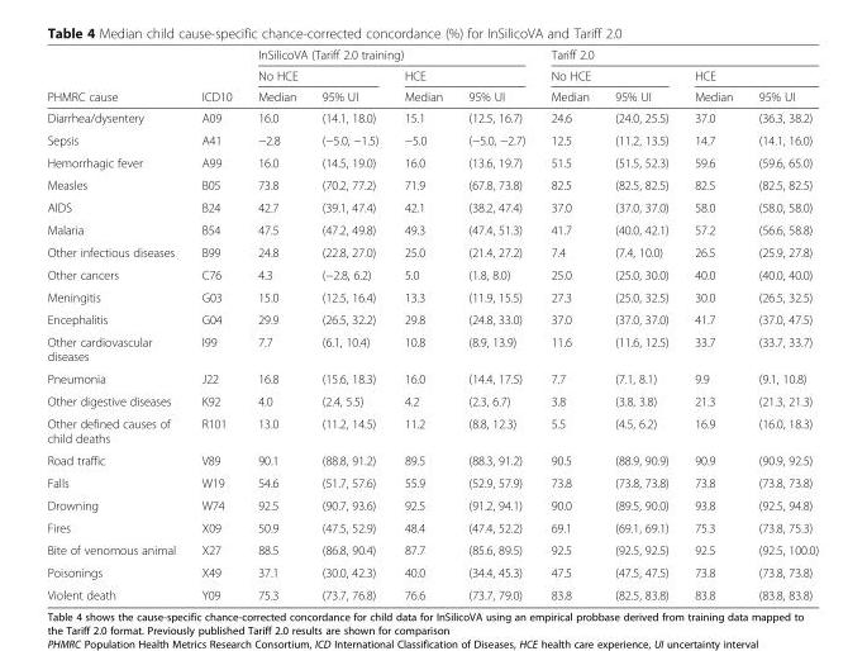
<table><thead><tr><td rowspan="3">PHMRC cause</td><td rowspan="3">ICD10</td><td colspan="4">InSilicoVA (Tariff 2.0 training)</td><td colspan="4">Tariff 2.0</td></tr><tr><td colspan="2">No HCE</td><td colspan="2">HCE</td><td colspan="2">No HCE</td><td colspan="2">HCE</td></tr><tr><td>Median</td><td>95% UI</td><td>Median</td><td>95% UI</td><td>Median</td><td>95% UI</td><td>Median</td><td>95% UI</td></tr></thead><tbody><tr><td>Diarrhea/dysentery</td><td>A09</td><td>16.0</td><td>(14.1, 18.0)</td><td>15.1</td><td>(12.5, 16.7)</td><td>24.6</td><td>(24.0, 25.5)</td><td>37.0</td><td>(36.3, 38.2)</td></tr><tr><td>Sepsis</td><td>A41</td><td>−2.8</td><td>(−5.0, −1.5)</td><td>−5.0</td><td>(−5.0, −2.7)</td><td>12.5</td><td>(11.2, 13.5)</td><td>14.7</td><td>(14.1, 16.0)</td></tr><tr><td>Hemorrhagic fever</td><td>A99</td><td>16.0</td><td>(14.5, 19.0)</td><td>16.0</td><td>(13.6, 19.7)</td><td>51.5</td><td>(51.5, 52.3)</td><td>59.6</td><td>(59.6, 65.0)</td></tr><tr><td>Measles</td><td>B05</td><td>73.8</td><td>(70.2, 77.2)</td><td>71.9</td><td>(67.8, 73.8)</td><td>82.5</td><td>(82.5, 82.5)</td><td>82.5</td><td>(82.5, 82.5)</td></tr><tr><td>AIDS</td><td>B24</td><td>42.7</td><td>(39.1, 47.4)</td><td>42.1</td><td>(38.2, 47.4)</td><td>37.0</td><td>(37.0, 37.0)</td><td>58.0</td><td>(58.0, 58.0)</td></tr><tr><td>Malaria</td><td>B54</td><td>47.5</td><td>(47.2, 49.8)</td><td>49.3</td><td>(47.4, 51.3)</td><td>41.7</td><td>(40.0, 42.1)</td><td>57.2</td><td>(56.6, 58.8)</td></tr><tr><td>Other infectious diseases</td><td>B99</td><td>24.8</td><td>(22.8, 27.0)</td><td>25.0</td><td>(21.4, 27.2)</td><td>7.4</td><td>(7.4, 10.0)</td><td>26.5</td><td>(25.9, 27.8)</td></tr><tr><td>Other cancers</td><td>C76</td><td>4.3</td><td>(−2.8, 6.2)</td><td>5.0</td><td>(1.8, 8.0)</td><td>25.0</td><td>(25.0, 30.0)</td><td>40.0</td><td>(40.0, 40.0)</td></tr><tr><td>Meningitis</td><td>G03</td><td>15.0</td><td>(12.5, 16.4)</td><td>13.3</td><td>(11.9, 15.5)</td><td>27.3</td><td>(25.0, 32.5)</td><td>30.0</td><td>(26.5, 32.5)</td></tr><tr><td>Encephalitis</td><td>G04</td><td>29.9</td><td>(26.5, 32.2)</td><td>29.8</td><td>(24.8, 33.0)</td><td>37.0</td><td>(37.0, 37.0)</td><td>41.7</td><td>(37.0, 47.5)</td></tr><tr><td>Other cardiovascular diseases</td><td>I99</td><td>7.7</td><td>(6.1, 10.4)</td><td>10.8</td><td>(8.9, 13.9)</td><td>11.6</td><td>(11.6, 12.5)</td><td>33.7</td><td>(33.7, 33.7)</td></tr><tr><td>Pneumonia</td><td>J22</td><td>16.8</td><td>(15.6, 18.3)</td><td>16.0</td><td>(14.4, 17.5)</td><td>7.7</td><td>(7.1, 8.1)</td><td>9.9</td><td>(9.1, 10.8)</td></tr><tr><td>Other digestive diseases</td><td>K92</td><td>4.0</td><td>(2.4, 5.5)</td><td>4.2</td><td>(2.3, 6.7)</td><td>3.8</td><td>(3.8, 3.8)</td><td>21.3</td><td>(21.3, 21.3)</td></tr><tr><td>Other defined causes of child deaths</td><td>R101</td><td>13.0</td><td>(11.2, 14.5)</td><td>11.2</td><td>(8.8, 12.3)</td><td>5.5</td><td>(4.5, 6.2)</td><td>16.9</td><td>(16.0, 18.3)</td></tr><tr><td>Road traffic</td><td>V89</td><td>90.1</td><td>(88.8, 91.2)</td><td>89.5</td><td>(88.3, 91.2)</td><td>90.5</td><td>(88.9, 90.9)</td><td>90.9</td><td>(90.9, 92.5)</td></tr><tr><td>Falls</td><td>W19</td><td>54.6</td><td>(51.7, 57.6)</td><td>55.9</td><td>(52.9, 57.9)</td><td>73.8</td><td>(73.8, 73.8)</td><td>73.8</td><td>(73.8, 73.8)</td></tr><tr><td>Drowning</td><td>W74</td><td>92.5</td><td>(90.7, 93.6)</td><td>92.5</td><td>(91.2, 94.1)</td><td>90.0</td><td>(89.5, 90.0)</td><td>93.8</td><td>(92.5, 94.8)</td></tr><tr><td>Fires</td><td>X09</td><td>50.9</td><td>(47.5, 52.9)</td><td>48.4</td><td>(47.4, 52.2)</td><td>69.1</td><td>(69.1, 69.1)</td><td>75.3</td><td>(73.8, 75.3)</td></tr><tr><td>Bite of venomous animal</td><td>X27</td><td>88.5</td><td>(86.8, 90.4)</td><td>87.7</td><td>(85.6, 89.5)</td><td>92.5</td><td>(92.5, 92.5)</td><td>92.5</td><td>(92.5, 100.0)</td></tr><tr><td>Poisonings</td><td>X49</td><td>37.1</td><td>(30.0, 42.3)</td><td>40.0</td><td>(34.4, 45.3)</td><td>47.5</td><td>(47.5, 47.5)</td><td>73.8</td><td>(73.8, 73.8)</td></tr><tr><td>Violent death</td><td>Y09</td><td>75.3</td><td>(73.7, 76.8)</td><td>76.6</td><td>(73.7, 79.0)</td><td>83.8</td><td>(82.5, 83.8)</td><td>83.8</td><td>(83.8, 83.8)</td></tr></tbody></table>